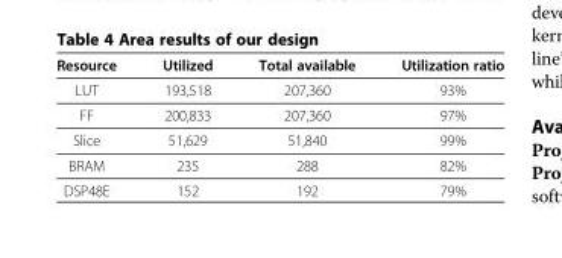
<table><thead><tr><td>Resource</td><td>Utilized</td><td>Total available</td><td>Utilization ratio</td></tr></thead><tbody><tr><td>LUT</td><td>193,518</td><td>207,360</td><td>93%</td></tr><tr><td>FF</td><td>200,833</td><td>207,360</td><td>97%</td></tr><tr><td>Slice</td><td>51,629</td><td>51,840</td><td>99%</td></tr><tr><td>BRAM</td><td>235</td><td>288</td><td>82%</td></tr><tr><td>DSP48E</td><td>152</td><td>192</td><td>79%</td></tr></tbody></table>